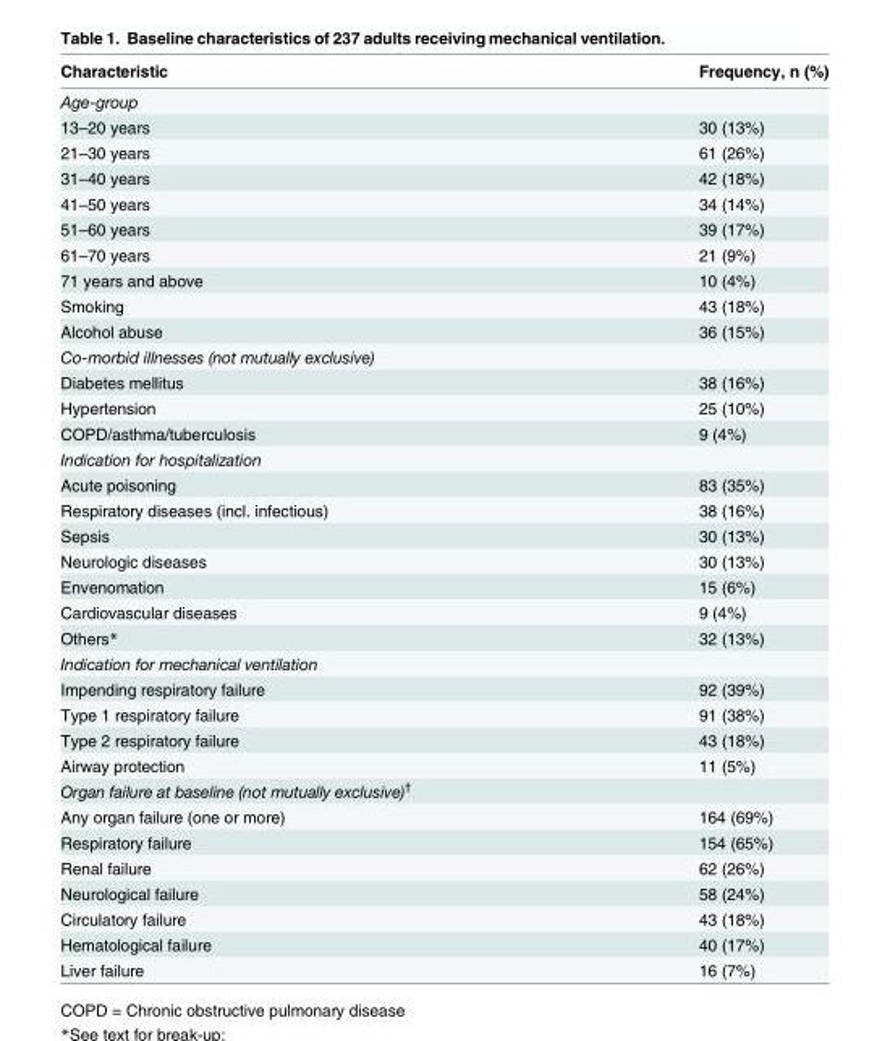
<table><thead><tr><td>Characteristic</td><td>Frequency, n (%)</td></tr></thead><tbody><tr><td colspan="2">Age-group</td></tr><tr><td>13–20 years</td><td>30 (13%)</td></tr><tr><td>21–30 years</td><td>61 (26%)</td></tr><tr><td>31–40 years</td><td>42 (18%)</td></tr><tr><td>41–50 years</td><td>34 (14%)</td></tr><tr><td>51–60 years</td><td>39 (17%)</td></tr><tr><td>61–70 years</td><td>21 (9%)</td></tr><tr><td>71 years and above</td><td>10 (4%)</td></tr><tr><td>Smoking</td><td>43 (18%)</td></tr><tr><td>Alcohol abuse</td><td>36 (15%)</td></tr><tr><td colspan="2">Co-morbid illnesses (not mutually exclusive)</td></tr><tr><td>Diabetes mellitus</td><td>38 (16%)</td></tr><tr><td>Hypertension</td><td>25 (10%)</td></tr><tr><td>COPD/asthma/tuberculosis</td><td>9 (4%)</td></tr><tr><td colspan="2">Indication for hospitalization</td></tr><tr><td>Acute poisoning</td><td>83 (35%)</td></tr><tr><td>Respiratory diseases (incl. infectious)</td><td>38 (16%)</td></tr><tr><td>Sepsis</td><td>30 (13%)</td></tr><tr><td>Neurologic diseases</td><td>30 (13%)</td></tr><tr><td>Envenomation</td><td>15 (6%)</td></tr><tr><td>Cardiovascular diseases</td><td>9 (4%)</td></tr><tr><td>Others*</td><td>32 (13%)</td></tr><tr><td colspan="2">Indication for mechanical ventilation</td></tr><tr><td>Impending respiratory failure</td><td>92 (39%)</td></tr><tr><td>Type 1 respiratory failure</td><td>91 (38%)</td></tr><tr><td>Type 2 respiratory failure</td><td>43 (18%)</td></tr><tr><td>Airway protection</td><td>11 (5%)</td></tr><tr><td colspan="2">Organ failure at baseline (not mutually exclusive)<sup>†</sup></td></tr><tr><td>Any organ failure (one or more)</td><td>164 (69%)</td></tr><tr><td>Respiratory failure</td><td>154 (65%)</td></tr><tr><td>Renal failure</td><td>62 (26%)</td></tr><tr><td>Neurological failure</td><td>58 (24%)</td></tr><tr><td>Circulatory failure</td><td>43 (18%)</td></tr><tr><td>Hematological failure</td><td>40 (17%)</td></tr><tr><td>Liver failure</td><td>16 (7%)</td></tr></tbody></table>